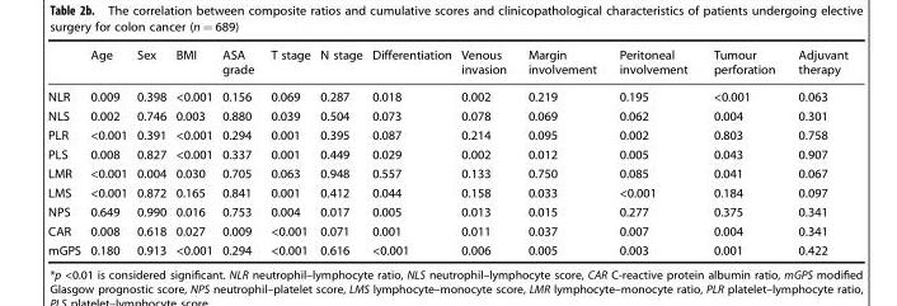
<table><thead><tr><td></td><td>Age</td><td>Sex</td><td>BMI</td><td>ASA grade</td><td>T stage</td><td>N stage</td><td>Differentiation</td><td>Venous invasion</td><td>Margin involvement</td><td>Peritoneal involvement</td><td>Tumour perforation</td><td>Adjuvant therapy</td></tr></thead><tbody><tr><td>NLR</td><td>0.009</td><td>0.398</td><td>&lt;0.001</td><td>0.156</td><td>0.069</td><td>0.287</td><td>0.018</td><td>0.002</td><td>0.219</td><td>0.195</td><td>&lt;0.001</td><td>0.063</td></tr><tr><td>NLS</td><td>0.002</td><td>0.746</td><td>0.003</td><td>0.880</td><td>0.039</td><td>0.504</td><td>0.073</td><td>0.078</td><td>0.069</td><td>0.062</td><td>0.004</td><td>0.301</td></tr><tr><td>PLR</td><td>&lt;0.001</td><td>0.391</td><td>&lt;0.001</td><td>0.294</td><td>0.001</td><td>0.395</td><td>0.087</td><td>0.214</td><td>0.095</td><td>0.002</td><td>0.803</td><td>0.758</td></tr><tr><td>PLS</td><td>0.008</td><td>0.827</td><td>&lt;0.001</td><td>0.337</td><td>0.001</td><td>0.449</td><td>0.029</td><td>0.002</td><td>0.012</td><td>0.005</td><td>0.043</td><td>0.907</td></tr><tr><td>LMR</td><td>&lt;0.001</td><td>0.004</td><td>0.030</td><td>0.705</td><td>0.063</td><td>0.948</td><td>0.557</td><td>0.133</td><td>0.750</td><td>0.085</td><td>0.041</td><td>0.067</td></tr><tr><td>LMS</td><td>&lt;0.001</td><td>0.872</td><td>0.165</td><td>0.841</td><td>0.001</td><td>0.412</td><td>0.044</td><td>0.158</td><td>0.033</td><td>&lt;0.001</td><td>0.184</td><td>0.097</td></tr><tr><td>NPS</td><td>0.649</td><td>0.990</td><td>0.016</td><td>0.753</td><td>0.004</td><td>0.017</td><td>0.005</td><td>0.013</td><td>0.015</td><td>0.277</td><td>0.375</td><td>0.341</td></tr><tr><td>CAR</td><td>0.008</td><td>0.618</td><td>0.027</td><td>0.009</td><td>&lt;0.001</td><td>0.071</td><td>0.001</td><td>0.011</td><td>0.037</td><td>0.007</td><td>0.004</td><td>0.341</td></tr><tr><td>mGPS</td><td>0.180</td><td>0.913</td><td>&lt;0.001</td><td>0.294</td><td>&lt;0.001</td><td>0.616</td><td>&lt;0.001</td><td>0.006</td><td>0.005</td><td>0.003</td><td>0.001</td><td>0.422</td></tr></tbody></table>